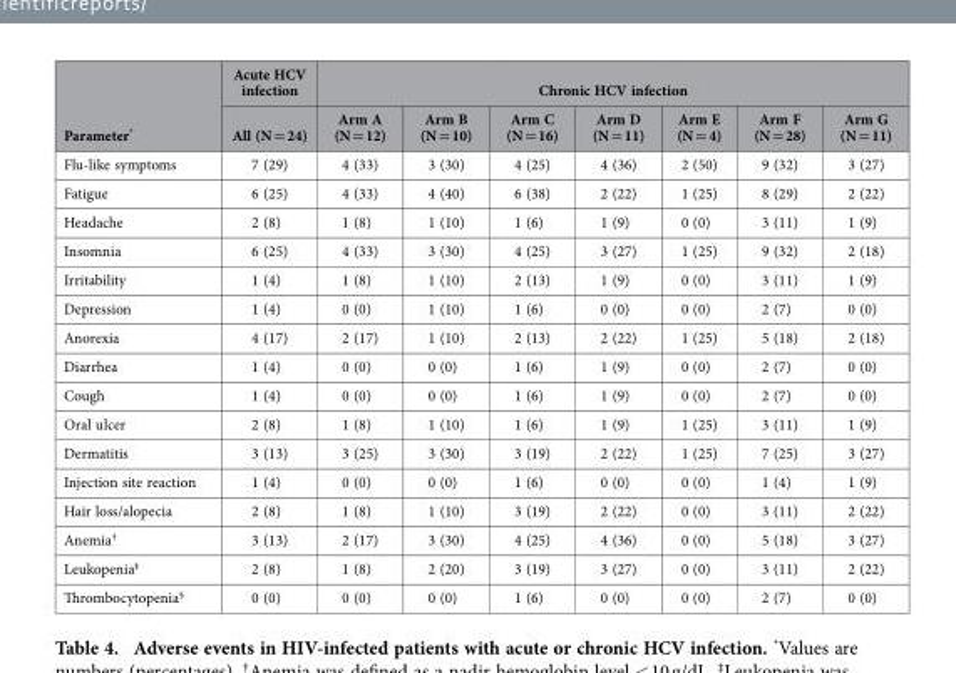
<table><thead><tr><td rowspan="2">Parameter*</td><td rowspan="2">Acute HCV infection All (N = 24)</td><td colspan="7">Chronic HCV infection</td></tr><tr><td>Arm A (N = 12)</td><td>Arm B (N = 10)</td><td>Arm C (N = 16)</td><td>Arm D (N = 11)</td><td>Arm E (N = 4)</td><td>Arm F (N = 28)</td><td>Arm G (N = 11)</td></tr></thead><tbody><tr><td>Flu-like symptoms</td><td>7 (29)</td><td>4 (33)</td><td>3 (30)</td><td>4 (25)</td><td>4 (36)</td><td>2 (50)</td><td>9 (32)</td><td>3 (27)</td></tr><tr><td>Fatigue</td><td>6 (25)</td><td>4 (33)</td><td>4 (40)</td><td>6 (38)</td><td>2 (22)</td><td>1 (25)</td><td>8 (29)</td><td>2 (22)</td></tr><tr><td>Headache</td><td>2 (8)</td><td>1 (8)</td><td>1 (10)</td><td>1 (6)</td><td>1 (9)</td><td>0 (0)</td><td>3 (11)</td><td>1 (9)</td></tr><tr><td>Insomnia</td><td>6 (25)</td><td>4 (33)</td><td>3 (30)</td><td>4 (25)</td><td>3 (27)</td><td>1 (25)</td><td>9 (32)</td><td>2 (18)</td></tr><tr><td>Irritability</td><td>1 (4)</td><td>1 (8)</td><td>1 (10)</td><td>2 (13)</td><td>1 (9)</td><td>0 (0)</td><td>3 (11)</td><td>1 (9)</td></tr><tr><td>Depression</td><td>1 (4)</td><td>0 (0)</td><td>1 (10)</td><td>1 (6)</td><td>0 (0)</td><td>0 (0)</td><td>2 (7)</td><td>0 (0)</td></tr><tr><td>Anorexia</td><td>4 (17)</td><td>2 (17)</td><td>1 (10)</td><td>2 (13)</td><td>2 (22)</td><td>1 (25)</td><td>5 (18)</td><td>2 (18)</td></tr><tr><td>Diarrhea</td><td>1 (4)</td><td>0 (0)</td><td>0 (0)</td><td>1 (6)</td><td>1 (9)</td><td>0 (0)</td><td>2 (7)</td><td>0 (0)</td></tr><tr><td>Cough</td><td>1 (4)</td><td>0 (0)</td><td>0 (0)</td><td>1 (6)</td><td>1 (9)</td><td>0 (0)</td><td>2 (7)</td><td>0 (0)</td></tr><tr><td>Oral ulcer</td><td>2 (8)</td><td>1 (8)</td><td>1 (10)</td><td>1 (6)</td><td>1 (9)</td><td>1 (25)</td><td>3 (11)</td><td>1 (9)</td></tr><tr><td>Dermatitis</td><td>3 (13)</td><td>3 (25)</td><td>3 (30)</td><td>3 (19)</td><td>2 (22)</td><td>1 (25)</td><td>7 (25)</td><td>3 (27)</td></tr><tr><td>Injection site reaction</td><td>1 (4)</td><td>0 (0)</td><td>0 (0)</td><td>1 (6)</td><td>0 (0)</td><td>0 (0)</td><td>1 (4)</td><td>1 (9)</td></tr><tr><td>Hair loss/alopecia</td><td>2 (8)</td><td>1 (8)</td><td>1 (10)</td><td>3 (19)</td><td>2 (22)</td><td>0 (0)</td><td>3 (11)</td><td>2 (22)</td></tr><tr><td>Anemia†</td><td>3 (13)</td><td>2 (17)</td><td>3 (30)</td><td>4 (25)</td><td>4 (36)</td><td>0 (0)</td><td>5 (18)</td><td>3 (27)</td></tr><tr><td>Leukopenia‡</td><td>2 (8)</td><td>1 (8)</td><td>2 (20)</td><td>3 (19)</td><td>3 (27)</td><td>0 (0)</td><td>3 (11)</td><td>2 (22)</td></tr><tr><td>Thrombocytopenia§</td><td>0 (0)</td><td>0 (0)</td><td>0 (0)</td><td>1 (6)</td><td>0 (0)</td><td>0 (0)</td><td>2 (7)</td><td>0 (0)</td></tr></tbody></table>